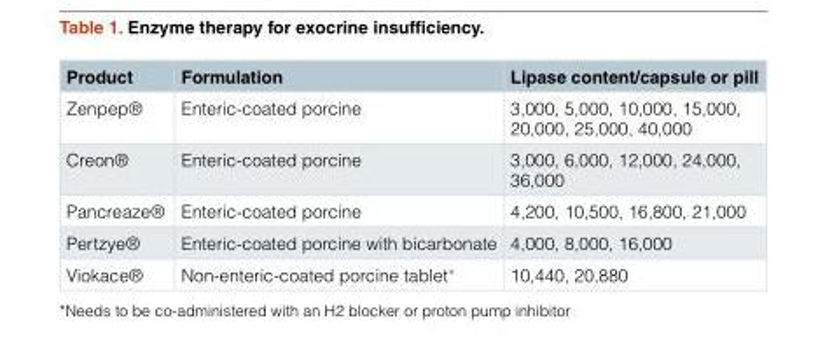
<table><thead><tr><td>Product</td><td>Formulation</td><td>Lipase content/capsule or pill</td></tr></thead><tbody><tr><td>Zenpep®</td><td>Enteric-coated porcine</td><td>3,000, 5,000, 10,000, 15,000, 20,000, 25,000, 40,000</td></tr><tr><td>Creon®</td><td>Enteric-coated porcine</td><td>3,000, 6,000, 12,000, 24,000, 36,000</td></tr><tr><td>Pancreaze®</td><td>Enteric-coated porcine</td><td>4,200, 10,500, 16,800, 21,000</td></tr><tr><td>Pertzye®</td><td>Enteric-coated porcine with bicarbonate</td><td>4,000, 8,000, 16,000</td></tr><tr><td>Viokace®</td><td>Non-enteric-coated porcine tablet*</td><td>10,440, 20,880</td></tr></tbody></table>